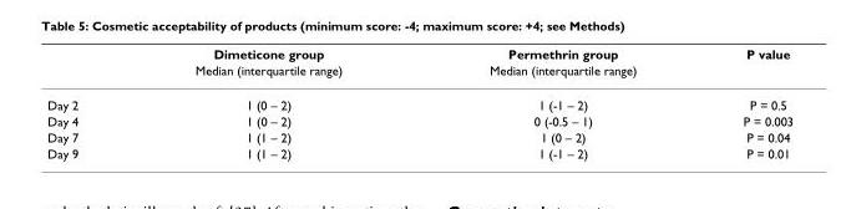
<table><thead><tr><td rowspan="2"></td><td rowspan="2">Dimeticone group Median (interquartile range)</td><td rowspan="2">Permethrin group Median (interquartile range)</td><td rowspan="2">P value</td></tr><tr></tr></thead><tbody><tr><td>Day 2</td><td>1 (0 – 2)</td><td>1 (-1 – 2)</td><td>P = 0.5</td></tr><tr><td>Day 4</td><td>1 (0 – 2)</td><td>0 (-0.5 – 1)</td><td>P = 0.003</td></tr><tr><td>Day 7</td><td>1 (1 – 2)</td><td>1 (0 – 2)</td><td>P = 0.04</td></tr><tr><td>Day 9</td><td>1 (1 – 2)</td><td>1 (-1 – 2)</td><td>P = 0.01</td></tr></tbody></table>